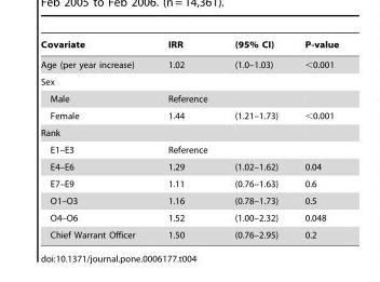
<table><thead><tr><td>Covariate</td><td>IRR</td><td>(95% CI)</td><td>P-value</td></tr></thead><tbody><tr><td>Age (per year increase)</td><td>1.02</td><td>(1.0–1.03)</td><td>&lt;0.001</td></tr><tr><td colspan="4">Sex</td></tr><tr><td>Male</td><td>Reference</td><td></td><td></td></tr><tr><td>Female</td><td>1.44</td><td>(1.21–1.73)</td><td>&lt;0.001</td></tr><tr><td colspan="4">Rank</td></tr><tr><td>E1–E3</td><td>Reference</td><td></td><td></td></tr><tr><td>E4–E6</td><td>1.29</td><td>(1.02–1.62)</td><td>0.04</td></tr><tr><td>E7–E9</td><td>1.11</td><td>(0.76–1.63)</td><td>0.6</td></tr><tr><td>O1–O3</td><td>1.16</td><td>(0.78–1.73)</td><td>0.5</td></tr><tr><td>O4–O6</td><td>1.52</td><td>(1.00–2.32)</td><td>0.048</td></tr><tr><td>Chief Warrant Officer</td><td>1.50</td><td>(0.76–2.95)</td><td>0.2</td></tr></tbody></table>